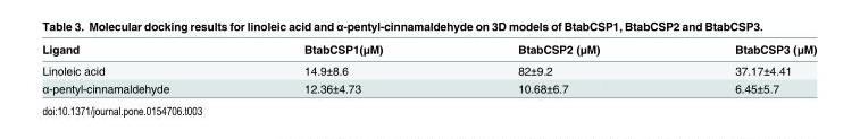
<table><thead><tr><td>Ligand</td><td>BtabCSP1(μM)</td><td>BtabCSP2 (μM)</td><td>BtabCSP3 (μM)</td></tr></thead><tbody><tr><td>Linoleic acid</td><td>14.9±8.6</td><td>82±9.2</td><td>37.17±4.41</td></tr><tr><td>α-pentyl-cinnamaldehyde</td><td>12.36±4.73</td><td>10.68±6.7</td><td>6.45±5.7</td></tr></tbody></table>